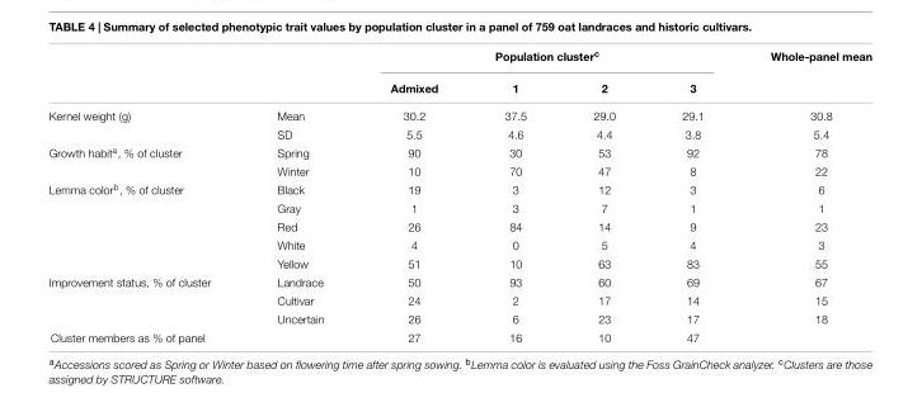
<table><thead><tr><td rowspan="2"></td><td rowspan="2"></td><td colspan="4">Population cluster<sup>c</sup></td><td rowspan="2">Whole-panel mean</td></tr><tr><td>Admixed</td><td>1</td><td>2</td><td>3</td></tr></thead><tbody><tr><td rowspan="2">Kernel weight (g)</td><td>Mean</td><td>30.2</td><td>37.5</td><td>29.0</td><td>29.1</td><td>30.8</td></tr><tr><td>SD</td><td>5.5</td><td>4.6</td><td>4.4</td><td>3.8</td><td>5.4</td></tr><tr><td rowspan="2">Growth habit<sup>a</sup>, % of cluster</td><td>Spring</td><td>90</td><td>30</td><td>53</td><td>92</td><td>78</td></tr><tr><td>Winter</td><td>10</td><td>70</td><td>47</td><td>8</td><td>22</td></tr><tr><td rowspan="5">Lemma color<sup>b</sup>, % of cluster</td><td>Black</td><td>19</td><td>3</td><td>12</td><td>3</td><td>6</td></tr><tr><td>Gray</td><td>1</td><td>3</td><td>7</td><td>1</td><td>1</td></tr><tr><td>Red</td><td>26</td><td>84</td><td>14</td><td>9</td><td>23</td></tr><tr><td>White</td><td>4</td><td>0</td><td>5</td><td>4</td><td>3</td></tr><tr><td>Yellow</td><td>51</td><td>10</td><td>63</td><td>83</td><td>55</td></tr><tr><td rowspan="3">Improvement status, % of cluster</td><td>Landrace</td><td>50</td><td>93</td><td>60</td><td>69</td><td>67</td></tr><tr><td>Cultivar</td><td>24</td><td>2</td><td>17</td><td>14</td><td>15</td></tr><tr><td>Uncertain</td><td>26</td><td>6</td><td>23</td><td>17</td><td>18</td></tr><tr><td colspan="2">Cluster members as % of panel</td><td>27</td><td>16</td><td>10</td><td>47</td><td></td></tr></tbody></table>